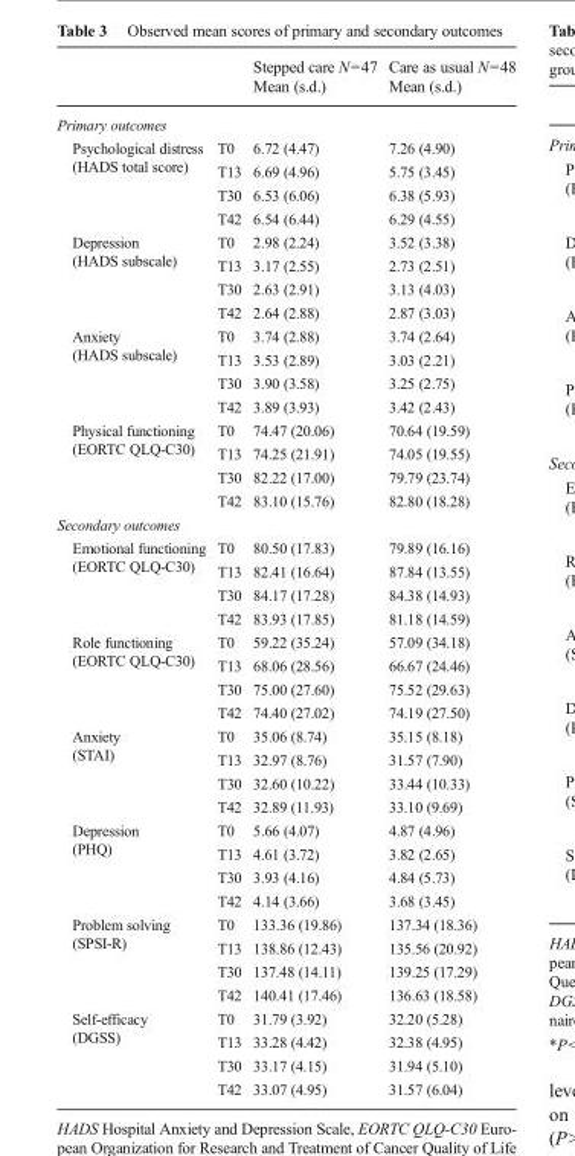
<table><thead><tr><td rowspan="2"></td><td rowspan="2"></td><td rowspan="2">Stepped care N=47 Mean (s.d.)</td><td rowspan="2">Care as usual N=48 Mean (s.d.)</td></tr><tr></tr></thead><tbody><tr><td colspan="4">Primary outcomes</td></tr><tr><td rowspan="4">Psychological distress (HADS total score)</td><td>T0</td><td>6.72 (4.47)</td><td>7.26 (4.90)</td></tr><tr><td>T13</td><td>6.69 (4.96)</td><td>5.75 (3.45)</td></tr><tr><td>T30</td><td>6.53 (6.06)</td><td>6.38 (5.93)</td></tr><tr><td>T42</td><td>6.54 (6.44)</td><td>6.29 (4.55)</td></tr><tr><td rowspan="4">Depression (HADS subscale)</td><td>T0</td><td>2.98 (2.24)</td><td>3.52 (3.38)</td></tr><tr><td>T13</td><td>3.17 (2.55)</td><td>2.73 (2.51)</td></tr><tr><td>T30</td><td>2.63 (2.91)</td><td>3.13 (4.03)</td></tr><tr><td>T42</td><td>2.64 (2.88)</td><td>2.87 (3.03)</td></tr><tr><td rowspan="4">Anxiety (HADS subscale)</td><td>T0</td><td>3.74 (2.88)</td><td>3.74 (2.64)</td></tr><tr><td>T13</td><td>3.53 (2.89)</td><td>3.03 (2.21)</td></tr><tr><td>T30</td><td>3.90 (3.58)</td><td>3.25 (2.75)</td></tr><tr><td>T42</td><td>3.89 (3.93)</td><td>3.42 (2.43)</td></tr><tr><td rowspan="4">Physical functioning (EORTC QLQ-C30)</td><td>T0</td><td>74.47 (20.06)</td><td>70.64 (19.59)</td></tr><tr><td>T13</td><td>74.25 (21.91)</td><td>74.05 (19.55)</td></tr><tr><td>T30</td><td>82.22 (17.00)</td><td>79.79 (23.74)</td></tr><tr><td>T42</td><td>83.10 (15.76)</td><td>82.80 (18.28)</td></tr><tr><td colspan="4">Secondary outcomes</td></tr><tr><td rowspan="4">Emotional functioning (EORTC QLQ-C30)</td><td>T0</td><td>80.50 (17.83)</td><td>79.89 (16.16)</td></tr><tr><td>T13</td><td>82.41 (16.64)</td><td>87.84 (13.55)</td></tr><tr><td>T30</td><td>84.17 (17.28)</td><td>84.38 (14.93)</td></tr><tr><td>T42</td><td>83.93 (17.85)</td><td>81.18 (14.59)</td></tr><tr><td rowspan="4">Role functioning (EORTC QLQ-C30)</td><td>T0</td><td>59.22 (35.24)</td><td>57.09 (34.18)</td></tr><tr><td>T13</td><td>68.06 (28.56)</td><td>66.67 (24.46)</td></tr><tr><td>T30</td><td>75.00 (27.60)</td><td>75.52 (29.63)</td></tr><tr><td>T42</td><td>74.40 (27.02)</td><td>74.19 (27.50)</td></tr><tr><td rowspan="4">Anxiety (STAI)</td><td>T0</td><td>35.06 (8.74)</td><td>35.15 (8.18)</td></tr><tr><td>T13</td><td>32.97 (8.76)</td><td>31.57 (7.90)</td></tr><tr><td>T30</td><td>32.60 (10.22)</td><td>33.44 (10.33)</td></tr><tr><td>T42</td><td>32.89 (11.93)</td><td>33.10 (9.69)</td></tr><tr><td rowspan="4">Depression (PHQ)</td><td>T0</td><td>5.66 (4.07)</td><td>4.87 (4.96)</td></tr><tr><td>T13</td><td>4.61 (3.72)</td><td>3.82 (2.65)</td></tr><tr><td>T30</td><td>3.93 (4.16)</td><td>4.84 (5.73)</td></tr><tr><td>T42</td><td>4.14 (3.66)</td><td>3.68 (3.45)</td></tr><tr><td rowspan="4">Problem solving (SPSI-R)</td><td>T0</td><td>133.36 (19.86)</td><td>137.34 (18.36)</td></tr><tr><td>T13</td><td>138.86 (12.43)</td><td>135.56 (20.92)</td></tr><tr><td>T30</td><td>137.48 (14.11)</td><td>139.25 (17.29)</td></tr><tr><td>T42</td><td>140.41 (17.46)</td><td>136.63 (18.58)</td></tr><tr><td rowspan="4">Self-efficacy (DGSS)</td><td>T0</td><td>31.79 (3.92)</td><td>32.20 (5.28)</td></tr><tr><td>T13</td><td>33.28 (4.42)</td><td>32.38 (4.95)</td></tr><tr><td>T30</td><td>33.17 (4.15)</td><td>31.94 (5.10)</td></tr><tr><td>T42</td><td>33.07 (4.95)</td><td>31.57 (6.04)</td></tr></tbody></table>